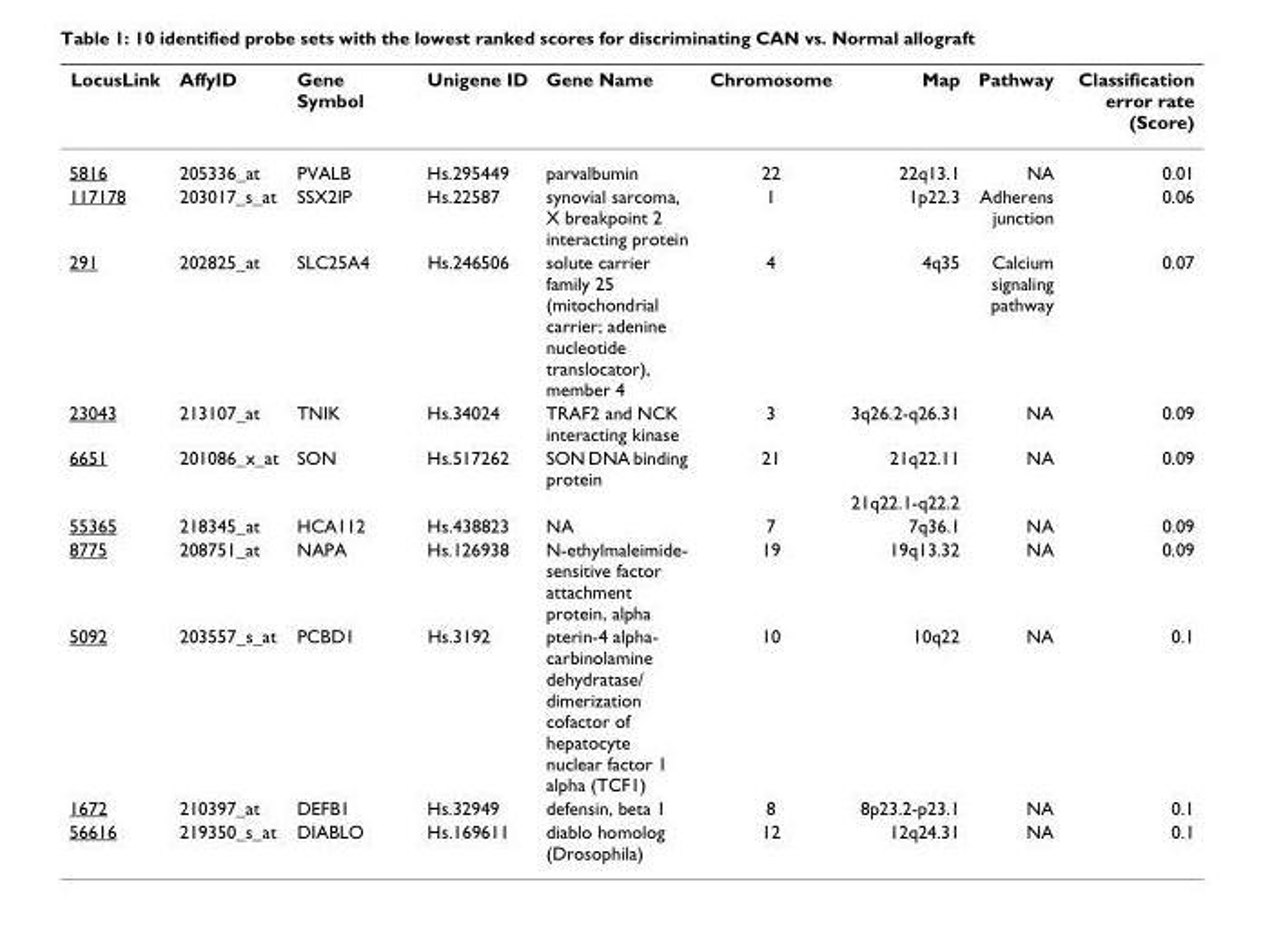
<table><thead><tr><td>LocusLink</td><td>AffyID</td><td>Gene Symbol</td><td>Unigene ID</td><td>Gene Name</td><td>Chromosome</td><td>Map</td><td>Pathway</td><td>Classification error rate (Score)</td></tr></thead><tbody><tr><td>5816</td><td>205336_at</td><td>PVALB</td><td>Hs.295449</td><td>parvalbumin</td><td>22</td><td>22q13.1</td><td>NA</td><td>0.01</td></tr><tr><td>117178</td><td>203017_s_at</td><td>SSX2IP</td><td>Hs.22587</td><td>synovial sarcoma, X breakpoint 2 interacting protein</td><td>1</td><td>1p22.3</td><td>Adherens junction</td><td>0.06</td></tr><tr><td>291</td><td>202825_at</td><td>SLC25A4</td><td>Hs.246506</td><td>solute carrier family 25 (mitochondrial carrier; adenine nucleotide translocator), member 4</td><td>4</td><td>4q35</td><td>Calcium signaling pathway</td><td>0.07</td></tr><tr><td>23043</td><td>213107_at</td><td>TNIK</td><td>Hs.34024</td><td>TRAF2 and NCK interacting kinase</td><td>3</td><td>3q26.2-q26.31</td><td>NA</td><td>0.09</td></tr><tr><td rowspan="2">6651</td><td>201086_x_at</td><td>SON</td><td>Hs.517262</td><td>SON DNA binding protein</td><td>21</td><td>21q22.11</td><td>NA</td><td>0.09</td></tr><tr><td></td><td></td><td></td><td></td><td></td><td>21q22.1-q22.2</td><td></td><td></td></tr><tr><td>55365</td><td>218345_at</td><td>HCA112</td><td>Hs.438823</td><td>NA</td><td>7</td><td>7q36.1</td><td>NA</td><td>0.09</td></tr><tr><td>8775</td><td>208751_at</td><td>NAPA</td><td>Hs.126938</td><td>N-ethylmaleimide- sensitive factor attachment protein, alpha</td><td>19</td><td>19q13.32</td><td>NA</td><td>0.09</td></tr><tr><td>5092</td><td>203557_s_at</td><td>PCBD1</td><td>Hs.3192</td><td>pterin-4 alpha- carbinolamine dehydratase/ dimerization cofactor of hepatocyte nuclear factor 1 alpha (TCF1)</td><td>10</td><td>10q22</td><td>NA</td><td>0.1</td></tr><tr><td>1672</td><td>210397_at</td><td>DEFB1</td><td>Hs.32949</td><td>defensin, beta 1</td><td>8</td><td>8p23.2-p23.1</td><td>NA</td><td>0.1</td></tr><tr><td>56616</td><td>219350_s_at</td><td>DIABLO</td><td>Hs.169611</td><td>diablo homolog (Drosophila)</td><td>12</td><td>12q24.31</td><td>NA</td><td>0.1</td></tr></tbody></table>